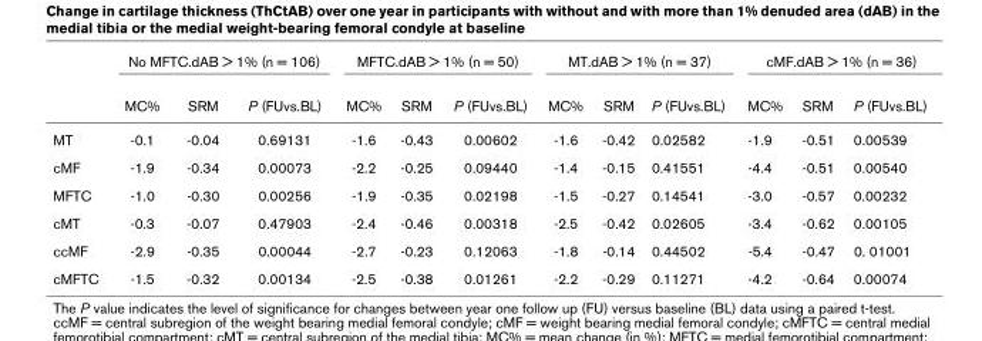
<table><thead><tr><td rowspan="2"></td><td colspan="3">No MFTC.dAB &gt; 1% (n = 106)</td><td colspan="3">MFTC.dAB &gt; 1% (n = 50)</td><td colspan="3">MT.dAB &gt; 1% (n = 37)</td><td colspan="3">cMF.dAB &gt; 1% (n = 36)</td></tr><tr><td>MC%</td><td>SRM</td><td>P (FUvs.BL)</td><td>MC%</td><td>SRM</td><td>P (FUvs.BL)</td><td>MC%</td><td>SRM</td><td>P (FUvs.BL)</td><td>MC%</td><td>SRM</td><td>P (FUvs.BL)</td></tr></thead><tbody><tr><td>MT</td><td>-0.1</td><td>-0.04</td><td>0.69131</td><td>-1.6</td><td>-0.43</td><td>0.00602</td><td>-1.6</td><td>-0.42</td><td>0.02582</td><td>-1.9</td><td>-0.51</td><td>0.00539</td></tr><tr><td>cMF</td><td>-1.9</td><td>-0.34</td><td>0.00073</td><td>-2.2</td><td>-0.25</td><td>0.09440</td><td>-1.4</td><td>-0.15</td><td>0.41551</td><td>-4.4</td><td>-0.51</td><td>0.00540</td></tr><tr><td>MFTC</td><td>-1.0</td><td>-0.30</td><td>0.00256</td><td>-1.9</td><td>-0.35</td><td>0.02198</td><td>-1.5</td><td>-0.27</td><td>0.14541</td><td>-3.0</td><td>-0.57</td><td>0.00232</td></tr><tr><td>cMT</td><td>-0.3</td><td>-0.07</td><td>0.47903</td><td>-2.4</td><td>-0.46</td><td>0.00318</td><td>-2.5</td><td>-0.42</td><td>0.02605</td><td>-3.4</td><td>-0.62</td><td>0.00105</td></tr><tr><td>ccMF</td><td>-2.9</td><td>-0.35</td><td>0.00044</td><td>-2.7</td><td>-0.23</td><td>0.12063</td><td>-1.8</td><td>-0.14</td><td>0.44502</td><td>-5.4</td><td>-0.47</td><td>0. 01001</td></tr><tr><td>cMFTC</td><td>-1.5</td><td>-0.32</td><td>0.00134</td><td>-2.5</td><td>-0.38</td><td>0.01261</td><td>-2.2</td><td>-0.29</td><td>0.11271</td><td>-4.2</td><td>-0.64</td><td>0.00074</td></tr></tbody></table>